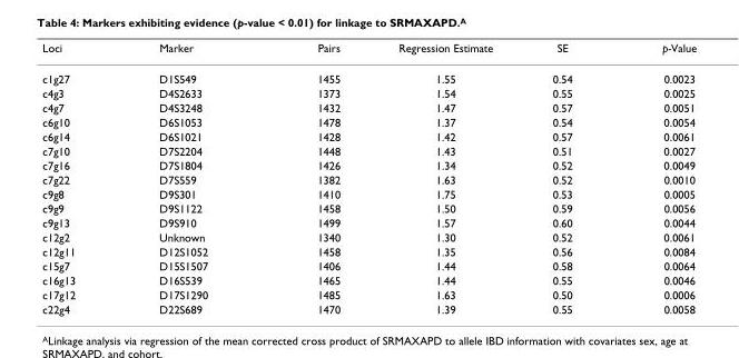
<table><thead><tr><td>Loci</td><td>Marker</td><td>Pairs</td><td>Regression Estimate</td><td>SE</td><td>p-Value</td></tr></thead><tbody><tr><td>c1g27</td><td>D1S549</td><td>1455</td><td>1.55</td><td>0.54</td><td>0.0023</td></tr><tr><td>c4g3</td><td>D4S2633</td><td>1373</td><td>1.54</td><td>0.55</td><td>0.0025</td></tr><tr><td>c4g7</td><td>D4S3248</td><td>1432</td><td>1.47</td><td>0.57</td><td>0.0051</td></tr><tr><td>c6g10</td><td>D6S1053</td><td>1478</td><td>1.37</td><td>0.54</td><td>0.0054</td></tr><tr><td>c6g14</td><td>D6S1021</td><td>1428</td><td>1.42</td><td>0.57</td><td>0.0061</td></tr><tr><td>c7g10</td><td>D7S2204</td><td>1448</td><td>1.43</td><td>0.51</td><td>0.0027</td></tr><tr><td>c7g16</td><td>D7S1804</td><td>1426</td><td>1.34</td><td>0.52</td><td>0.0049</td></tr><tr><td>c7g22</td><td>D7S559</td><td>1382</td><td>1.63</td><td>0.52</td><td>0.0010</td></tr><tr><td>c9g8</td><td>D9S301</td><td>1410</td><td>1.75</td><td>0.53</td><td>0.0005</td></tr><tr><td>c9g9</td><td>D9S1122</td><td>1458</td><td>1.50</td><td>0.59</td><td>0.0056</td></tr><tr><td>c9g13</td><td>D9S910</td><td>1499</td><td>1.57</td><td>0.60</td><td>0.0044</td></tr><tr><td>c12g2</td><td>Unknown</td><td>1340</td><td>1.30</td><td>0.52</td><td>0.0061</td></tr><tr><td>c12g11</td><td>D12S1052</td><td>1458</td><td>1.35</td><td>0.56</td><td>0.0084</td></tr><tr><td>c15g7</td><td>D15S1507</td><td>1406</td><td>1.44</td><td>0.58</td><td>0.0064</td></tr><tr><td>c16g13</td><td>D16S539</td><td>1465</td><td>1.44</td><td>0.55</td><td>0.0046</td></tr><tr><td>c17g12</td><td>D17S1290</td><td>1485</td><td>1.63</td><td>0.50</td><td>0.0006</td></tr><tr><td>c22g4</td><td>D22S689</td><td>1470</td><td>1.39</td><td>0.55</td><td>0.0058</td></tr></tbody></table>